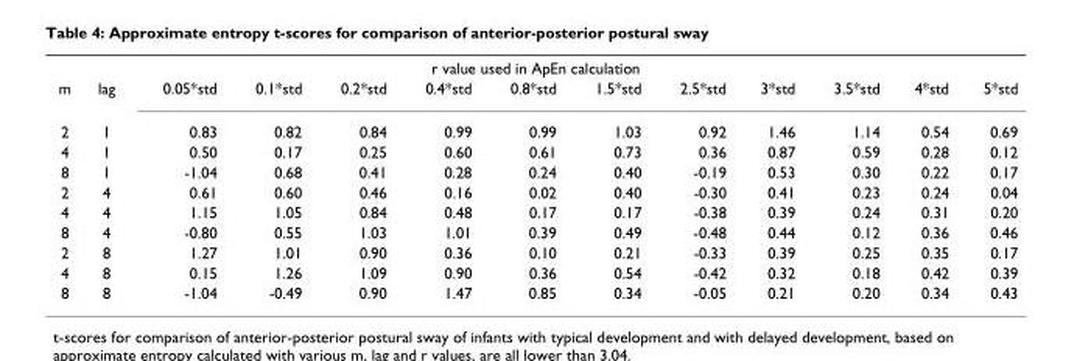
<table><tbody><tr><td colspan="13">r value used in ApEn calculation</td></tr><tr><td>m</td><td>lag</td><td>0.05*std</td><td>0.1*std</td><td>0.2*std</td><td>0.4*std</td><td>0.8*std</td><td>1.5*std</td><td>2.5*std</td><td>3*std</td><td>3.5*std</td><td>4*std</td><td>5*std</td></tr><tr><td>2</td><td>1</td><td>0.83</td><td>0.82</td><td>0.84</td><td>0.99</td><td>0.99</td><td>1.03</td><td>0.92</td><td>1.46</td><td>1.14</td><td>0.54</td><td>0.69</td></tr><tr><td>4</td><td>1</td><td>0.50</td><td>0.17</td><td>0.25</td><td>0.60</td><td>0.61</td><td>0.73</td><td>0.36</td><td>0.87</td><td>0.59</td><td>0.28</td><td>0.12</td></tr><tr><td>8</td><td>1</td><td>-1.04</td><td>0.68</td><td>0.41</td><td>0.28</td><td>0.24</td><td>0.40</td><td>-0.19</td><td>0.53</td><td>0.30</td><td>0.22</td><td>0.17</td></tr><tr><td>2</td><td>4</td><td>0.61</td><td>0.60</td><td>0.46</td><td>0.16</td><td>0.02</td><td>0.40</td><td>-0.30</td><td>0.41</td><td>0.23</td><td>0.24</td><td>0.04</td></tr><tr><td>4</td><td>4</td><td>1.15</td><td>1.05</td><td>0.84</td><td>0.48</td><td>0.17</td><td>0.17</td><td>-0.38</td><td>0.39</td><td>0.24</td><td>0.31</td><td>0.20</td></tr><tr><td>8</td><td>4</td><td>-0.80</td><td>0.55</td><td>1.03</td><td>1.01</td><td>0.39</td><td>0.49</td><td>-0.48</td><td>0.44</td><td>0.12</td><td>0.36</td><td>0.46</td></tr><tr><td>2</td><td>8</td><td>1.27</td><td>1.01</td><td>0.90</td><td>0.36</td><td>0.10</td><td>0.21</td><td>-0.33</td><td>0.39</td><td>0.25</td><td>0.35</td><td>0.17</td></tr><tr><td>4</td><td>8</td><td>0.15</td><td>1.26</td><td>1.09</td><td>0.90</td><td>0.36</td><td>0.54</td><td>-0.42</td><td>0.32</td><td>0.18</td><td>0.42</td><td>0.39</td></tr><tr><td>8</td><td>8</td><td>-1.04</td><td>-0.49</td><td>0.90</td><td>1.47</td><td>0.85</td><td>0.34</td><td>-0.05</td><td>0.21</td><td>0.20</td><td>0.34</td><td>0.43</td></tr></tbody></table>